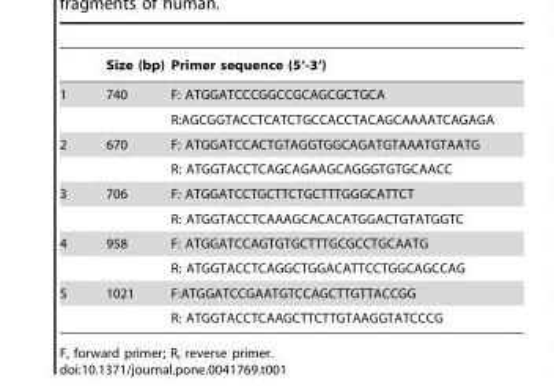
<table><thead><tr><td></td><td>Size (bp)</td><td>Primer sequence (5‘-3‘)</td></tr></thead><tbody><tr><td rowspan="2">1</td><td>740</td><td>F: ATGGATCCCGGCCGCAGCGCTGCA</td></tr><tr><td></td><td>R:AGCGGTACCTCATCTGCCACCTACAGCAAAATCAGAGA</td></tr><tr><td rowspan="2">2</td><td>670</td><td>F: ATGGATCCACTGTAGGTGGCAGATGTAAATGTAATG</td></tr><tr><td></td><td>R: ATGGTACCTCAGCAGAAGCAGGGTGTGCAACC</td></tr><tr><td rowspan="2">3</td><td>706</td><td>F: ATGGATCCTGCTTCTGCTTTGGGCATTCT</td></tr><tr><td></td><td>R: ATGGTACCTCAAAGCACACATGGACTGTATGGTC</td></tr><tr><td rowspan="2">4</td><td>958</td><td>F: ATGGATCCAGTGTGCTTTGCGCCTGCAATG</td></tr><tr><td></td><td>R: ATGGTACCTCAGGCTGGACATTCCTGGCAGCCAG</td></tr><tr><td rowspan="2">5</td><td>1021</td><td>F:ATGGATCCGAATGTCCAGCTTGTTACCGG</td></tr><tr><td></td><td>R: ATGGTACCTCAAGCTTCTTGTAAGGTATCCCG</td></tr></tbody></table>